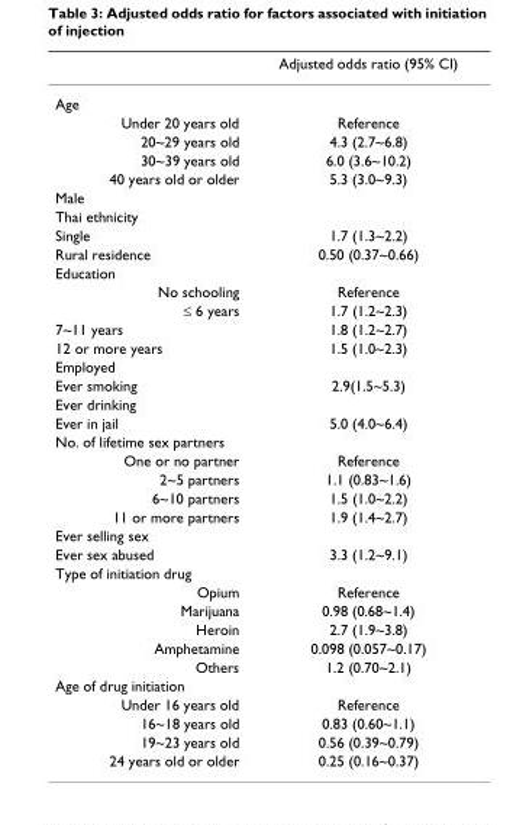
<table><thead><tr><td></td><td>Adjusted odds ratio (95% CI)</td></tr></thead><tbody><tr><td colspan="2">Age</td></tr><tr><td>Under 20 years old</td><td>Reference</td></tr><tr><td>20~29 years old</td><td>4.3 (2.7~6.8)</td></tr><tr><td>30~39 years old</td><td>6.0 (3.6~10.2)</td></tr><tr><td>40 years old or older</td><td>5.3 (3.0~9.3)</td></tr><tr><td colspan="2">Male</td></tr><tr><td colspan="2">Thai ethnicity</td></tr><tr><td>Single</td><td>1.7 (1.3~2.2)</td></tr><tr><td>Rural residence</td><td>0.50 (0.37~0.66)</td></tr><tr><td colspan="2">Education</td></tr><tr><td>No schooling</td><td>Reference</td></tr><tr><td>≤ 6 years</td><td>1.7 (1.2~2.3)</td></tr><tr><td>7~11 years</td><td>1.8 (1.2~2.7)</td></tr><tr><td>12 or more years</td><td>1.5 (1.0~2.3)</td></tr><tr><td colspan="2">Employed</td></tr><tr><td>Ever smoking</td><td>2.9(1.5~5.3)</td></tr><tr><td colspan="2">Ever drinking</td></tr><tr><td>Ever in jail</td><td>5.0 (4.0~6.4)</td></tr><tr><td colspan="2">No. of lifetime sex partners</td></tr><tr><td>One or no partner</td><td>Reference</td></tr><tr><td>2~5 partners</td><td>1.1 (0.83~1.6)</td></tr><tr><td>6~10 partners</td><td>1.5 (1.0~2.2)</td></tr><tr><td>11 or more partners</td><td>1.9 (1.4~2.7)</td></tr><tr><td colspan="2">Ever selling sex</td></tr><tr><td>Ever sex abused</td><td>3.3 (1.2~9.1)</td></tr><tr><td colspan="2">Type of initiation drug</td></tr><tr><td>Opium</td><td>Reference</td></tr><tr><td>Marijuana</td><td>0.98 (0.68~1.4)</td></tr><tr><td>Heroin</td><td>2.7 (1.9~3.8)</td></tr><tr><td>Amphetamine</td><td>0.098 (0.057~0.17)</td></tr><tr><td>Others</td><td>1.2 (0.70~2.1)</td></tr><tr><td colspan="2">Age of drug initiation</td></tr><tr><td>Under 16 years old</td><td>Reference</td></tr><tr><td>16~18 years old</td><td>0.83 (0.60~1.1)</td></tr><tr><td>19~23 years old</td><td>0.56 (0.39~0.79)</td></tr><tr><td>24 years old or older</td><td>0.25 (0.16~0.37)</td></tr></tbody></table>